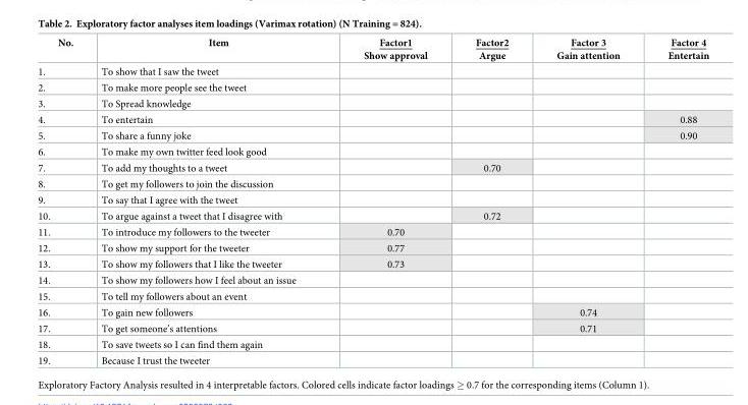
<table><thead><tr><td>No.</td><td>Item</td><td>Factor1 Show approval</td><td>Factor2 Argue</td><td>Factor 3 Gain attention</td><td>Factor 4 Entertain</td></tr></thead><tbody><tr><td>1.</td><td>To show that I saw the tweet</td><td></td><td></td><td></td><td></td></tr><tr><td>2.</td><td>To make more people see the tweet</td><td></td><td></td><td></td><td></td></tr><tr><td>3.</td><td>To Spread knowledge</td><td></td><td></td><td></td><td></td></tr><tr><td>4.</td><td>To entertain</td><td></td><td></td><td></td><td>0.88</td></tr><tr><td>5.</td><td>To share a funny joke</td><td></td><td></td><td></td><td>0.90</td></tr><tr><td>6.</td><td>To make my own twitter feed look good</td><td></td><td></td><td></td><td></td></tr><tr><td>7.</td><td>To add my thoughts to a tweet</td><td></td><td>0.70</td><td></td><td></td></tr><tr><td>8.</td><td>To get my followers to join the discussion</td><td></td><td></td><td></td><td></td></tr><tr><td>9.</td><td>To say that I agree with the tweet</td><td></td><td></td><td></td><td></td></tr><tr><td>10.</td><td>To argue against a tweet that I disagree with</td><td></td><td>0.72</td><td></td><td></td></tr><tr><td>11.</td><td>To introduce my followers to the tweeter</td><td>0.70</td><td></td><td></td><td></td></tr><tr><td>12.</td><td>To show my support for the tweeter</td><td>0.77</td><td></td><td></td><td></td></tr><tr><td>13.</td><td>To show my followers that I like the tweeter</td><td>0.73</td><td></td><td></td><td></td></tr><tr><td>14.</td><td>To show my followers how I feel about an issue</td><td></td><td></td><td></td><td></td></tr><tr><td>15.</td><td>To tell my followers about an event</td><td></td><td></td><td></td><td></td></tr><tr><td>16.</td><td>To gain new followers</td><td></td><td></td><td>0.74</td><td></td></tr><tr><td>17.</td><td>To get someone’s attentions</td><td></td><td></td><td>0.71</td><td></td></tr><tr><td>18.</td><td>To save tweets so I can find them again</td><td></td><td></td><td></td><td></td></tr><tr><td>19.</td><td>Because I trust the tweeter</td><td></td><td></td><td></td><td></td></tr></tbody></table>